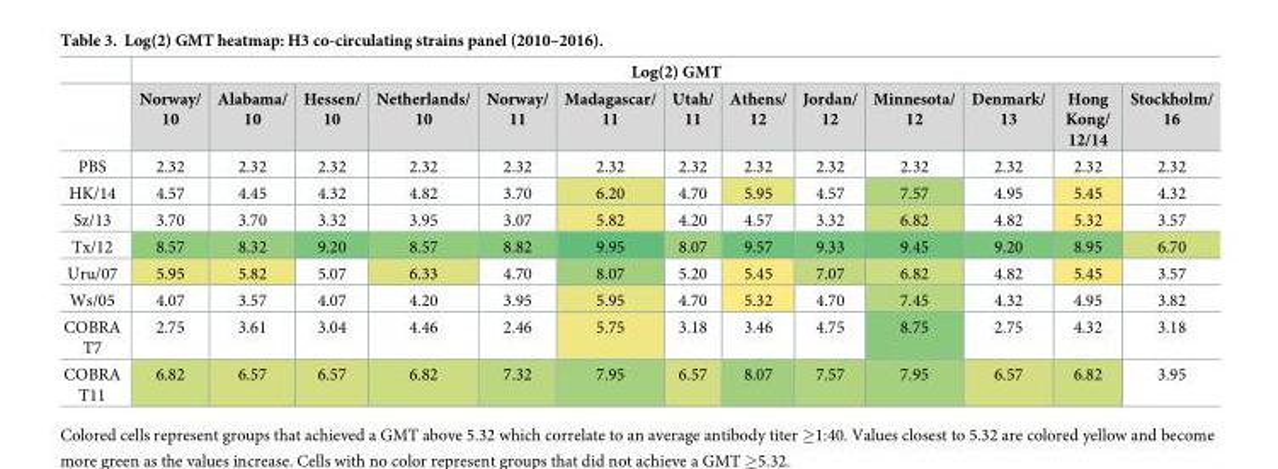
<table><thead><tr><td rowspan="2"></td><td colspan="13">Log(2) GMT</td></tr><tr><td>Norway/ 10</td><td>Alabama/ 10</td><td>Hessen/ 10</td><td>Netherlands/ 10</td><td>Norway/ 11</td><td>Madagascar/ 11</td><td>Utah/ 11</td><td>Athens/ 12</td><td>Jordan/ 12</td><td>Minnesota/ 12</td><td>Denmark/ 13</td><td>Hong Kong/ 12/14</td><td>Stockholm/ 16</td></tr></thead><tbody><tr><td>PBS</td><td>2.32</td><td>2.32</td><td>2.32</td><td>2.32</td><td>2.32</td><td>2.32</td><td>2.32</td><td>2.32</td><td>2.32</td><td>2.32</td><td>2.32</td><td>2.32</td><td>2.32</td></tr><tr><td>HK/14</td><td>4.57</td><td>4.45</td><td>4.32</td><td>4.82</td><td>3.70</td><td>6.20</td><td>4.70</td><td>5.95</td><td>4.57</td><td>7.57</td><td>4.95</td><td>5.45</td><td>4.32</td></tr><tr><td>Sz/13</td><td>3.70</td><td>3.70</td><td>3.32</td><td>3.95</td><td>3.07</td><td>5.82</td><td>4.20</td><td>4.57</td><td>3.32</td><td>6.82</td><td>4.82</td><td>5.32</td><td>3.57</td></tr><tr><td>Tx/12</td><td>8.57</td><td>8.32</td><td>9.20</td><td>8.57</td><td>8.82</td><td>9.95</td><td>8.07</td><td>9.57</td><td>9.33</td><td>9.45</td><td>9.20</td><td>8.95</td><td>6.70</td></tr><tr><td>Uru/07</td><td>5.95</td><td>5.82</td><td>5.07</td><td>6.33</td><td>4.70</td><td>8.07</td><td>5.20</td><td>5.45</td><td>7.07</td><td>6.82</td><td>4.82</td><td>5.45</td><td>3.57</td></tr><tr><td>Ws/05</td><td>4.07</td><td>3.57</td><td>4.07</td><td>4.20</td><td>3.95</td><td>5.95</td><td>4.70</td><td>5.32</td><td>4.70</td><td>7.45</td><td>4.32</td><td>4.95</td><td>3.82</td></tr><tr><td>COBRA T7</td><td>2.75</td><td>3.61</td><td>3.04</td><td>4.46</td><td>2.46</td><td>5.75</td><td>3.18</td><td>3.46</td><td>4.75</td><td>8.75</td><td>2.75</td><td>4.32</td><td>3.18</td></tr><tr><td>COBRA T11</td><td>6.82</td><td>6.57</td><td>6.57</td><td>6.82</td><td>7.32</td><td>7.95</td><td>6.57</td><td>8.07</td><td>7.57</td><td>7.95</td><td>6.57</td><td>6.82</td><td>3.95</td></tr></tbody></table>